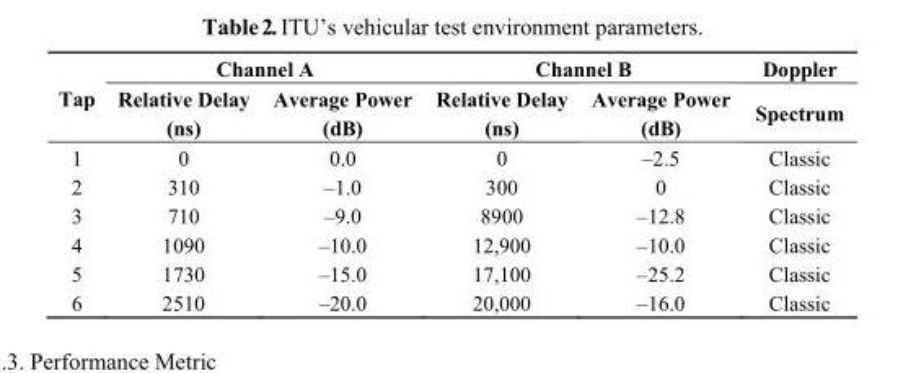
<table><thead><tr><td rowspan="2">Tap</td><td colspan="2">Channel A</td><td colspan="2">Channel B</td><td rowspan="2">Doppler Spectrum</td></tr><tr><td>Relative Delay (ns)</td><td>Average Power (dB)</td><td>Relative Delay (ns)</td><td>Average Power (dB)</td></tr></thead><tbody><tr><td>1</td><td>0</td><td>0.0</td><td>0</td><td>–2.5</td><td>Classic</td></tr><tr><td>2</td><td>310</td><td>–1.0</td><td>300</td><td>0</td><td>Classic</td></tr><tr><td>3</td><td>710</td><td>–9.0</td><td>8900</td><td>–12.8</td><td>Classic</td></tr><tr><td>4</td><td>1090</td><td>–10.0</td><td>12,900</td><td>–10.0</td><td>Classic</td></tr><tr><td>5</td><td>1730</td><td>–15.0</td><td>17,100</td><td>–25.2</td><td>Classic</td></tr><tr><td>6</td><td>2510</td><td>–20.0</td><td>20,000</td><td>–16.0</td><td>Classic</td></tr></tbody></table>